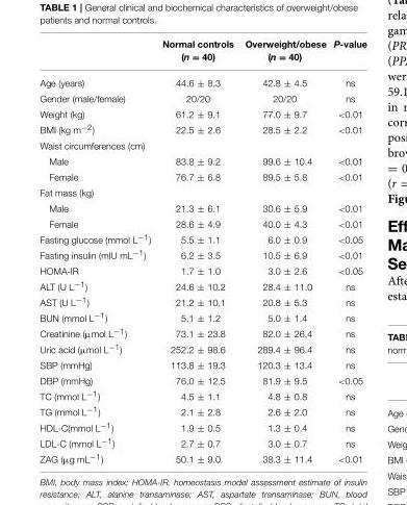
<table><thead><tr><td></td><td>Normal controls (n = 40)</td><td>Overweight/obese (n = 40)</td><td>P-value</td></tr></thead><tbody><tr><td>Age (years)</td><td>44.6 ± 8.3</td><td>42.8 ± 4.5</td><td>ns</td></tr><tr><td>Gender (male/female)</td><td>20/20</td><td>20/20</td><td>ns</td></tr><tr><td>Weight (kg)</td><td>61.2 ± 9.1</td><td>77.0 ± 9.7</td><td>&lt;0.01</td></tr><tr><td>BMI (kg m<sup>−2</sup>)</td><td>22.5 ± 2.6</td><td>28.5 ± 2.2</td><td>&lt;0.01</td></tr><tr><td colspan="4">Waist circumferences (cm)</td></tr><tr><td>Male</td><td>83.8 ± 9.2</td><td>99.6 ± 10.4</td><td>&lt;0.01</td></tr><tr><td>Female</td><td>76.7 ± 6.8</td><td>89.5 ± 5.8</td><td>&lt;0.01</td></tr><tr><td colspan="4">Fat mass (kg)</td></tr><tr><td>Male</td><td>21.3 ± 6.1</td><td>30.6 ± 5.9</td><td>&lt;0.01</td></tr><tr><td>Female</td><td>28.6 ± 4.9</td><td>40.0 ± 4.3</td><td>&lt;0.01</td></tr><tr><td>Fasting glucose (mmol L<sup>−1</sup>)</td><td>5.5 ± 1.1</td><td>6.0 ± 0.9</td><td>&lt;0.05</td></tr><tr><td>Fasting insulin (mIU mL<sup>−1</sup>)</td><td>6.2 ± 3.5</td><td>10.5 ± 6.9</td><td>&lt;0.01</td></tr><tr><td>HOMA-IR</td><td>1.7 ± 1.0</td><td>3.0 ± 2.6</td><td>&lt;0.05</td></tr><tr><td>ALT (U L<sup>−1</sup>)</td><td>24.6 ± 10.2</td><td>28.4 ± 11.0</td><td>ns</td></tr><tr><td>AST (U L<sup>−1</sup>)</td><td>21.2 ± 10.1</td><td>20.8 ± 5.3</td><td>ns</td></tr><tr><td>BUN (mmol L<sup>−1</sup>)</td><td>5.1 ± 1.2</td><td>5.0 ± 1.4</td><td>ns</td></tr><tr><td>Creatinine (µmol L<sup>−1</sup>)</td><td>73.1 ± 23.8</td><td>82.0 ± 26.4</td><td>ns</td></tr><tr><td>Uric acid (µmol L<sup>−1</sup>)</td><td>252.2 ± 98.6</td><td>289.4 ± 96.4</td><td>ns</td></tr><tr><td>SBP (mmHg)</td><td>113.8 ± 19.3</td><td>120.3 ± 13.4</td><td>ns</td></tr><tr><td>DBP (mmHg)</td><td>76.0 ± 12.5</td><td>81.9 ± 9.5</td><td>&lt;0.05</td></tr><tr><td>TC (mmol L<sup>−1</sup>)</td><td>4.5 ± 1.1</td><td>4.8 ± 0.8</td><td>ns</td></tr><tr><td>TG (mmol L<sup>−1</sup>)</td><td>2.1 ± 2.8</td><td>2.6 ± 2.0</td><td>ns</td></tr><tr><td>HDL-C(mmol L<sup>−1</sup>)</td><td>1.9 ± 0.5</td><td>1.3 ± 0.4</td><td>ns</td></tr><tr><td>LDL-C (mmol L<sup>−1</sup>)</td><td>2.7 ± 0.7</td><td>3.0 ± 0.7</td><td>ns</td></tr><tr><td>ZAG (µg mL<sup>−1</sup>)</td><td>50.1 ± 9.0</td><td>38.3 ± 11.4</td><td>&lt;0.01</td></tr></tbody></table>